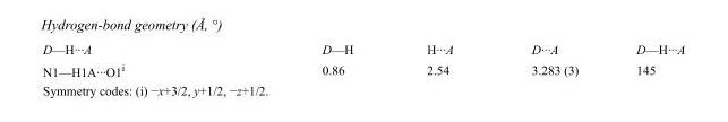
<table><tbody><tr><td>D—H···A</td><td>D—H</td><td>H···A</td><td>D···A</td><td>D—H···A</td></tr><tr><td>N1—H1A···O1<sup>i</sup></td><td>0.86</td><td>2.54</td><td>3.283 (3)</td><td>145</td></tr></tbody></table>